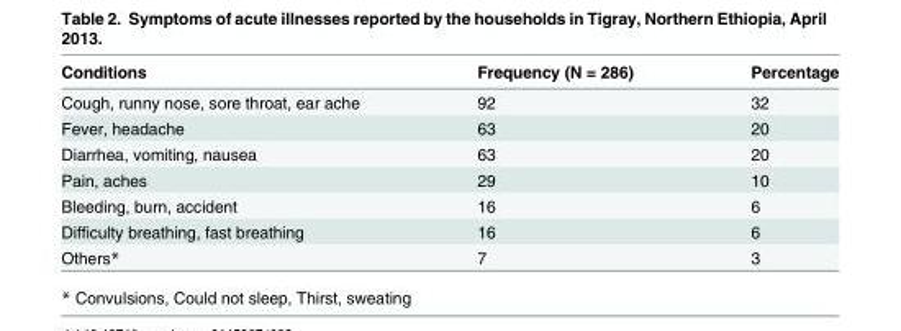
<table><thead><tr><td>Conditions</td><td>Frequency (N = 286)</td><td>Percentage</td></tr></thead><tbody><tr><td>Cough, runny nose, sore throat, ear ache</td><td>92</td><td>32</td></tr><tr><td>Fever, headache</td><td>63</td><td>20</td></tr><tr><td>Diarrhea, vomiting, nausea</td><td>63</td><td>20</td></tr><tr><td>Pain, aches</td><td>29</td><td>10</td></tr><tr><td>Bleeding, burn, accident</td><td>16</td><td>6</td></tr><tr><td>Difficulty breathing, fast breathing</td><td>16</td><td>6</td></tr><tr><td>Others*</td><td>7</td><td>3</td></tr></tbody></table>